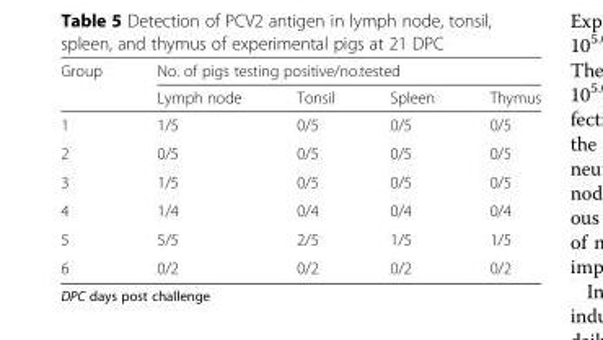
<table><thead><tr><td rowspan="2">Group</td><td colspan="4">No. of pigs testing positive/no.tested</td></tr><tr><td>Lymph node</td><td>Tonsil</td><td>Spleen</td><td>Thymus</td></tr></thead><tbody><tr><td>1</td><td>1/5</td><td>0/5</td><td>0/5</td><td>0/5</td></tr><tr><td>2</td><td>0/5</td><td>0/5</td><td>0/5</td><td>0/5</td></tr><tr><td>3</td><td>1/5</td><td>0/5</td><td>0/5</td><td>0/5</td></tr><tr><td>4</td><td>1/4</td><td>0/4</td><td>0/4</td><td>0/4</td></tr><tr><td>5</td><td>5/5</td><td>2/5</td><td>1/5</td><td>1/5</td></tr><tr><td>6</td><td>0/2</td><td>0/2</td><td>0/2</td><td>0/2</td></tr></tbody></table>